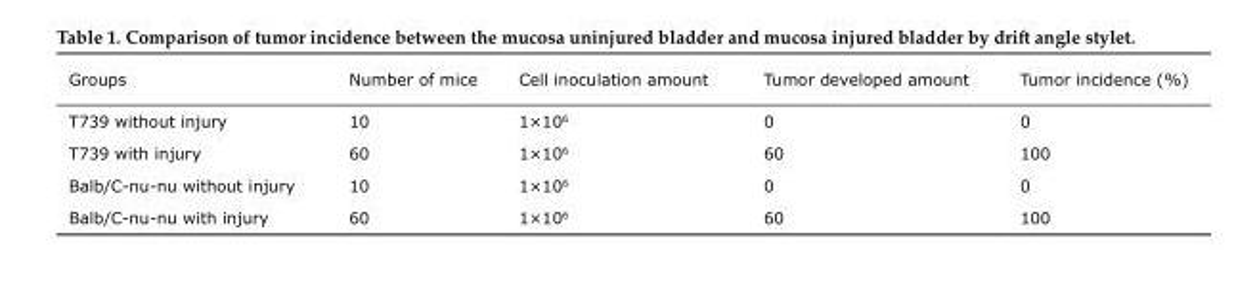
<table><thead><tr><td>Groups</td><td>Number of mice</td><td>Cell inoculation amount</td><td>Tumor developed amount</td><td>Tumor incidence (%)</td></tr></thead><tbody><tr><td>T739 without injury</td><td>10</td><td>1×10<sup>6</sup></td><td>0</td><td>0</td></tr><tr><td>T739 with injury</td><td>60</td><td>1×10<sup>6</sup></td><td>60</td><td>100</td></tr><tr><td>Balb/C-nu-nu without injury</td><td>10</td><td>1×10<sup>6</sup></td><td>0</td><td>0</td></tr><tr><td>Balb/C-nu-nu with injury</td><td>60</td><td>1×10<sup>6</sup></td><td>60</td><td>100</td></tr></tbody></table>